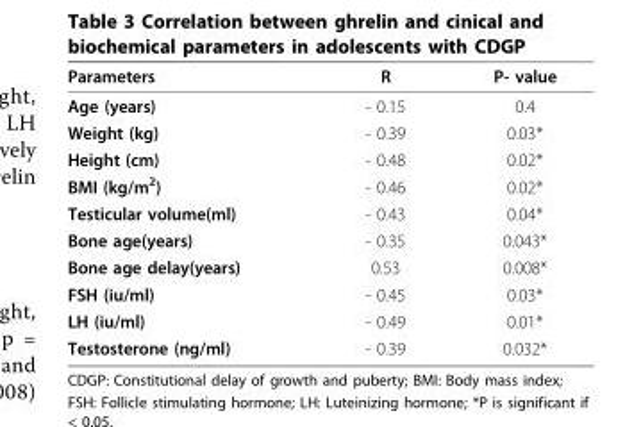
<table><thead><tr><td>Parameters</td><td>R</td><td>P- value</td></tr></thead><tbody><tr><td>Age (years)</td><td>- 0.15</td><td>0.4</td></tr><tr><td>Weight (kg)</td><td>- 0.39</td><td>0.03*</td></tr><tr><td>Height (cm)</td><td>- 0.48</td><td>0.02*</td></tr><tr><td>BMI (kg/m<sup>2</sup>)</td><td>- 0.46</td><td>0.02*</td></tr><tr><td>Testicular volume(ml)</td><td>- 0.43</td><td>0.04*</td></tr><tr><td>Bone age(years)</td><td>- 0.35</td><td>0.043*</td></tr><tr><td>Bone age delay(years)</td><td>0.53</td><td>0.008*</td></tr><tr><td>FSH (iu/ml)</td><td>- 0.45</td><td>0.03*</td></tr><tr><td>LH (iu/ml)</td><td>- 0.49</td><td>0.01*</td></tr><tr><td>Testosterone (ng/ml)</td><td>- 0.39</td><td>0.032*</td></tr></tbody></table>